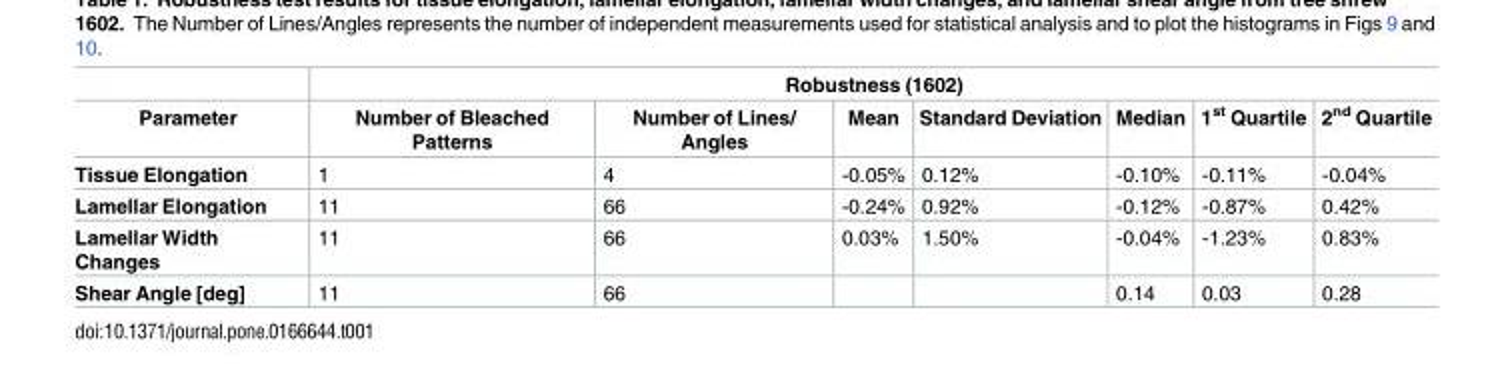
<table><thead><tr><td rowspan="2">Parameter</td><td colspan="7">Robustness (1602)</td></tr><tr><td>Number of Bleached Patterns</td><td>Number of Lines/ Angles</td><td>Mean</td><td>Standard Deviation</td><td>Median</td><td>1<sup>st</sup> Quartile</td><td>2<sup>nd</sup> Quartile</td></tr></thead><tbody><tr><td>Tissue Elongation</td><td>1</td><td>4</td><td>-0.05%</td><td>0.12%</td><td>-0.10%</td><td>-0.11%</td><td>-0.04%</td></tr><tr><td>Lamellar Elongation</td><td>11</td><td>66</td><td>-0.24%</td><td>0.92%</td><td>-0.12%</td><td>-0.87%</td><td>0.42%</td></tr><tr><td>Lamellar Width Changes</td><td>11</td><td>66</td><td>0.03%</td><td>1.50%</td><td>-0.04%</td><td>-1.23%</td><td>0.83%</td></tr><tr><td>Shear Angle [deg]</td><td>11</td><td>66</td><td></td><td></td><td>0.14</td><td>0.03</td><td>0.28</td></tr></tbody></table>